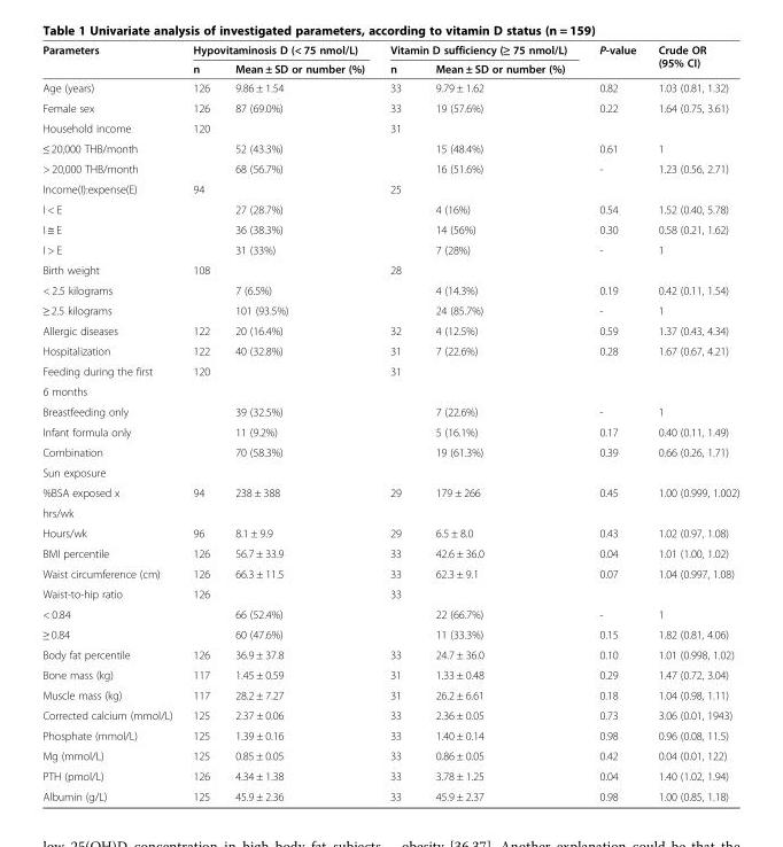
<table><thead><tr><td rowspan="2">Parameters</td><td colspan="2">Hypovitaminosis D (&lt; 75 nmol/L)</td><td colspan="2">Vitamin D sufficiency (≥ 75 nmol/L)</td><td rowspan="2">P-value</td><td rowspan="2">Crude OR (95% CI)</td></tr><tr><td>n</td><td>Mean ± SD or number (%)</td><td>n</td><td>Mean ± SD or number (%)</td></tr></thead><tbody><tr><td>Age (years)</td><td>126</td><td>9.86 ± 1.54</td><td>33</td><td>9.79 ± 1.62</td><td>0.82</td><td>1.03 (0.81, 1.32)</td></tr><tr><td>Female sex</td><td>126</td><td>87 (69.0%)</td><td>33</td><td>19 (57.6%)</td><td>0.22</td><td>1.64 (0.75, 3.61)</td></tr><tr><td>Household income</td><td>120</td><td></td><td>31</td><td></td><td></td><td></td></tr><tr><td>≤ 20,000 THB/month</td><td></td><td>52 (43.3%)</td><td></td><td>15 (48.4%)</td><td>0.61</td><td>1</td></tr><tr><td>&gt; 20,000 THB/month</td><td></td><td>68 (56.7%)</td><td></td><td>16 (51.6%)</td><td>-</td><td>1.23 (0.56, 2.71)</td></tr><tr><td>Income(I):expense(E)</td><td>94</td><td></td><td>25</td><td></td><td></td><td></td></tr><tr><td>I &lt; E</td><td></td><td>27 (28.7%)</td><td></td><td>4 (16%)</td><td>0.54</td><td>1.52 (0.40, 5.78)</td></tr><tr><td>I ≅ E</td><td></td><td>36 (38.3%)</td><td></td><td>14 (56%)</td><td>0.30</td><td>0.58 (0.21, 1.62)</td></tr><tr><td>I &gt; E</td><td></td><td>31 (33%)</td><td></td><td>7 (28%)</td><td>-</td><td>1</td></tr><tr><td>Birth weight</td><td>108</td><td></td><td>28</td><td></td><td></td><td></td></tr><tr><td>&lt; 2.5 kilograms</td><td></td><td>7 (6.5%)</td><td></td><td>4 (14.3%)</td><td>0.19</td><td>0.42 (0.11, 1.54)</td></tr><tr><td>≥ 2.5 kilograms</td><td></td><td>101 (93.5%)</td><td></td><td>24 (85.7%)</td><td>-</td><td>1</td></tr><tr><td>Allergic diseases</td><td>122</td><td>20 (16.4%)</td><td>32</td><td>4 (12.5%)</td><td>0.59</td><td>1.37 (0.43, 4.34)</td></tr><tr><td>Hospitalization</td><td>122</td><td>40 (32.8%)</td><td>31</td><td>7 (22.6%)</td><td>0.28</td><td>1.67 (0.67, 4.21)</td></tr><tr><td>Feeding during the first</td><td>120</td><td></td><td>31</td><td></td><td></td><td></td></tr><tr><td colspan="7">6 months</td></tr><tr><td>Breastfeeding only</td><td></td><td>39 (32.5%)</td><td></td><td>7 (22.6%)</td><td>-</td><td>1</td></tr><tr><td>Infant formula only</td><td></td><td>11 (9.2%)</td><td></td><td>5 (16.1%)</td><td>0.17</td><td>0.40 (0.11, 1.49)</td></tr><tr><td>Combination</td><td></td><td>70 (58.3%)</td><td></td><td>19 (61.3%)</td><td>0.39</td><td>0.66 (0.26, 1.71)</td></tr><tr><td colspan="7">Sun exposure</td></tr><tr><td>%BSA exposed x</td><td>94</td><td>238 ± 388</td><td>29</td><td>179 ± 266</td><td>0.45</td><td>1.00 (0.999, 1.002)</td></tr><tr><td colspan="7">hrs/wk</td></tr><tr><td>Hours/wk</td><td>96</td><td>8.1 ± 9.9</td><td>29</td><td>6.5 ± 8.0</td><td>0.43</td><td>1.02 (0.97, 1.08)</td></tr><tr><td>BMI percentile</td><td>126</td><td>56.7 ± 33.9</td><td>33</td><td>42.6 ± 36.0</td><td>0.04</td><td>1.01 (1.00, 1.02)</td></tr><tr><td>Waist circumference (cm)</td><td>126</td><td>66.3 ± 11.5</td><td>33</td><td>62.3 ± 9.1</td><td>0.07</td><td>1.04 (0.997, 1.08)</td></tr><tr><td>Waist-to-hip ratio</td><td>126</td><td></td><td>33</td><td></td><td></td><td></td></tr><tr><td>&lt; 0.84</td><td></td><td>66 (52.4%)</td><td></td><td>22 (66.7%)</td><td>-</td><td>1</td></tr><tr><td>≥ 0.84</td><td></td><td>60 (47.6%)</td><td></td><td>11 (33.3%)</td><td>0.15</td><td>1.82 (0.81, 4.06)</td></tr><tr><td>Body fat percentile</td><td>126</td><td>36.9 ± 37.8</td><td>33</td><td>24.7 ± 36.0</td><td>0.10</td><td>1.01 (0.998, 1.02)</td></tr><tr><td>Bone mass (kg)</td><td>117</td><td>1.45 ± 0.59</td><td>31</td><td>1.33 ± 0.48</td><td>0.29</td><td>1.47 (0.72, 3.04)</td></tr><tr><td>Muscle mass (kg)</td><td>117</td><td>28.2 ± 7.27</td><td>31</td><td>26.2 ± 6.61</td><td>0.18</td><td>1.04 (0.98, 1.11)</td></tr><tr><td>Corrected calcium (mmol/L)</td><td>125</td><td>2.37 ± 0.06</td><td>33</td><td>2.36 ± 0.05</td><td>0.73</td><td>3.06 (0.01, 1943)</td></tr><tr><td>Phosphate (mmol/L)</td><td>125</td><td>1.39 ± 0.16</td><td>33</td><td>1.40 ± 0.14</td><td>0.98</td><td>0.96 (0.08, 11.5)</td></tr><tr><td>Mg (mmol/L)</td><td>125</td><td>0.85 ± 0.05</td><td>33</td><td>0.86 ± 0.05</td><td>0.42</td><td>0.04 (0.01, 122)</td></tr><tr><td>PTH (pmol/L)</td><td>126</td><td>4.34 ± 1.38</td><td>33</td><td>3.78 ± 1.25</td><td>0.04</td><td>1.40 (1.02, 1.94)</td></tr><tr><td>Albumin (g/L)</td><td>125</td><td>45.9 ± 2.36</td><td>33</td><td>45.9 ± 2.37</td><td>0.98</td><td>1.00 (0.85, 1.18)</td></tr></tbody></table>